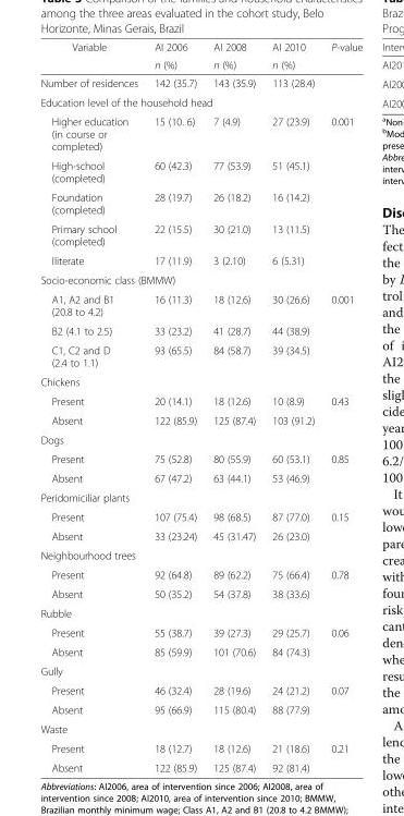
<table><thead><tr><td rowspan="2">Variable</td><td rowspan="2">AI 2006 n (%)</td><td rowspan="2">AI 2008 n (%)</td><td rowspan="2">AI 2010 n (%)</td><td rowspan="2">P-value</td></tr><tr></tr></thead><tbody><tr><td>Number of residences</td><td>142 (35.7)</td><td>143 (35.9)</td><td>113 (28.4)</td><td></td></tr><tr><td colspan="5">Education level of the household head</td></tr><tr><td>Higher education (in course or completed)</td><td>15 (10. 6)</td><td>7 (4.9)</td><td>27 (23.9)</td><td rowspan="5">0.001</td></tr><tr><td>High-school (completed)</td><td>60 (42.3)</td><td>77 (53.9)</td><td>51 (45.1)</td></tr><tr><td>Foundation (completed)</td><td>28 (19.7)</td><td>26 (18.2)</td><td>16 (14.2)</td></tr><tr><td>Primary school (completed)</td><td>22 (15.5)</td><td>30 (21.0)</td><td>13 (11.5)</td></tr><tr><td>Iliterate</td><td>17 (11.9)</td><td>3 (2.10)</td><td>6 (5.31)</td></tr><tr><td colspan="5">Socio-economic class (BMMW)</td></tr><tr><td>A1, A2 and B1 (20.8 to 4.2)</td><td>16 (11.3)</td><td>18 (12.6)</td><td>30 (26.6)</td><td rowspan="3">0.001</td></tr><tr><td>B2 (4.1 to 2.5)</td><td>33 (23.2)</td><td>41 (28.7)</td><td>44 (38.9)</td></tr><tr><td>C1, C2 and D (2.4 to 1.1)</td><td>93 (65.5)</td><td>84 (58.7)</td><td>39 (34.5)</td></tr><tr><td colspan="5">Chickens</td></tr><tr><td>Present</td><td>20 (14.1)</td><td>18 (12.6)</td><td>10 (8.9)</td><td rowspan="2">0.43</td></tr><tr><td>Absent</td><td>122 (85.9)</td><td>125 (87.4)</td><td>103 (91.2)</td></tr><tr><td colspan="5">Dogs</td></tr><tr><td>Present</td><td>75 (52.8)</td><td>80 (55.9)</td><td>60 (53.1)</td><td rowspan="2">0.85</td></tr><tr><td>Absent</td><td>67 (47.2)</td><td>63 (44.1)</td><td>53 (46.9)</td></tr><tr><td colspan="5">Peridomiciliar plants</td></tr><tr><td>Present</td><td>107 (75.4)</td><td>98 (68.5)</td><td>87 (77.0)</td><td rowspan="2">0.15</td></tr><tr><td>Absent</td><td>33 (23.24)</td><td>45 (31.47)</td><td>26 (23.0)</td></tr><tr><td colspan="5">Neighbourhood trees</td></tr><tr><td>Present</td><td>92 (64.8)</td><td>89 (62.2)</td><td>75 (66.4)</td><td rowspan="2">0.78</td></tr><tr><td>Absent</td><td>50 (35.2)</td><td>54 (37.8)</td><td>38 (33.6)</td></tr><tr><td colspan="5">Rubble</td></tr><tr><td>Present</td><td>55 (38.7)</td><td>39 (27.3)</td><td>29 (25.7)</td><td rowspan="2">0.06</td></tr><tr><td>Absent</td><td>85 (59.9)</td><td>101 (70.6)</td><td>84 (74.3)</td></tr><tr><td colspan="5">Gully</td></tr><tr><td>Present</td><td>46 (32.4)</td><td>28 (19.6)</td><td>24 (21.2)</td><td rowspan="2">0.07</td></tr><tr><td>Absent</td><td>95 (66.9)</td><td>115 (80.4)</td><td>88 (77.9)</td></tr><tr><td colspan="5">Waste</td></tr><tr><td>Present</td><td>18 (12.7)</td><td>18 (12.6)</td><td>21 (18.6)</td><td rowspan="2">0.21</td></tr><tr><td>Absent</td><td>122 (85.9)</td><td>125 (87.4)</td><td>92 (81.4)</td></tr></tbody></table>